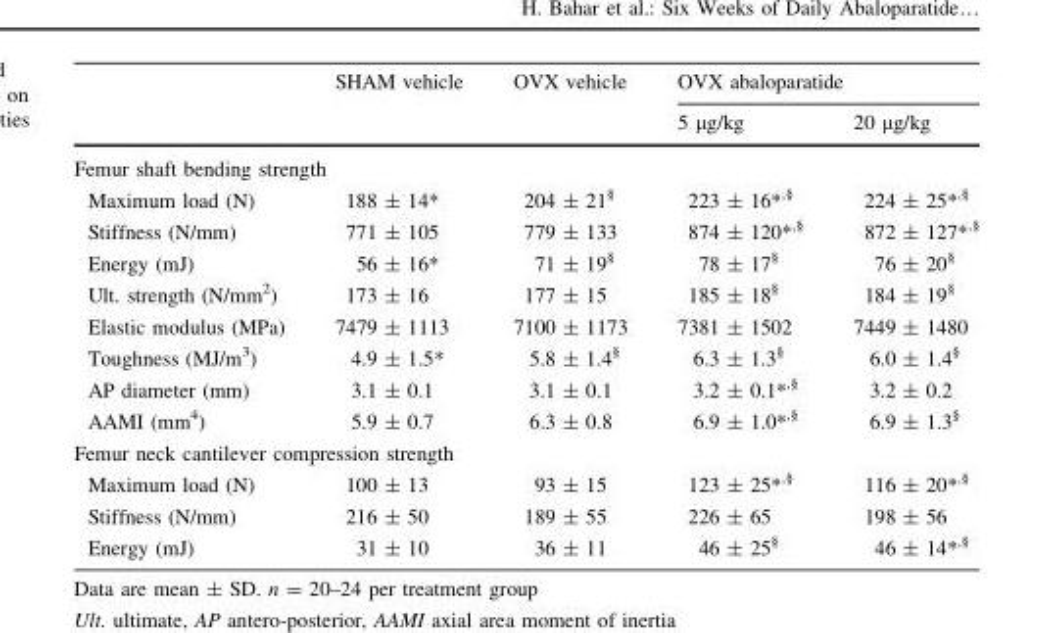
<table><thead><tr><td rowspan="2"></td><td rowspan="2">SHAM vehicle</td><td rowspan="2">OVX vehicle</td><td colspan="2">OVX abaloparatide</td></tr><tr><td>5 µg/kg</td><td>20 µg/kg</td></tr></thead><tbody><tr><td colspan="5">Femur shaft bending strength</td></tr><tr><td>Maximum load (N)</td><td>188 ± 14*</td><td>204 ± 21<sup>§</sup></td><td>223 ± 16*<sup>,§</sup></td><td>224 ± 25*<sup>,§</sup></td></tr><tr><td>Stiffness (N/mm)</td><td>771 ± 105</td><td>779 ± 133</td><td>874 ± 120*<sup>,§</sup></td><td>872 ± 127*<sup>,§</sup></td></tr><tr><td>Energy (mJ)</td><td>56 ± 16*</td><td>71 ± 19<sup>§</sup></td><td>78 ± 17<sup>§</sup></td><td>76 ± 20<sup>§</sup></td></tr><tr><td>Ult. strength (N/mm<sup>2</sup>)</td><td>173 ± 16</td><td>177 ± 15</td><td>185 ± 18<sup>§</sup></td><td>184 ± 19<sup>§</sup></td></tr><tr><td>Elastic modulus (MPa)</td><td>7479 ± 1113</td><td>7100 ± 1173</td><td>7381 ± 1502</td><td>7449 ± 1480</td></tr><tr><td>Toughness (MJ/m<sup>3</sup>)</td><td>4.9 ± 1.5*</td><td>5.8 ± 1.4<sup>§</sup></td><td>6.3 ± 1.3<sup>§</sup></td><td>6.0 ± 1.4<sup>§</sup></td></tr><tr><td>AP diameter (mm)</td><td>3.1 ± 0.1</td><td>3.1 ± 0.1</td><td>3.2 ± 0.1*<sup>,§</sup></td><td>3.2 ± 0.2</td></tr><tr><td>AAMI (mm<sup>4</sup>)</td><td>5.9 ± 0.7</td><td>6.3 ± 0.8</td><td>6.9 ± 1.0*<sup>,§</sup></td><td>6.9 ± 1.3<sup>§</sup></td></tr><tr><td colspan="5">Femur neck cantilever compression strength</td></tr><tr><td>Maximum load (N)</td><td>100 ± 13</td><td>93 ± 15</td><td>123 ± 25*<sup>,§</sup></td><td>116 ± 20*<sup>,§</sup></td></tr><tr><td>Stiffness (N/mm)</td><td>216 ± 50</td><td>189 ± 55</td><td>226 ± 65</td><td>198 ± 56</td></tr><tr><td>Energy (mJ)</td><td>31 ± 10</td><td>36 ± 11</td><td>46 ± 25<sup>§</sup></td><td>46 ± 14*<sup>,§</sup></td></tr></tbody></table>